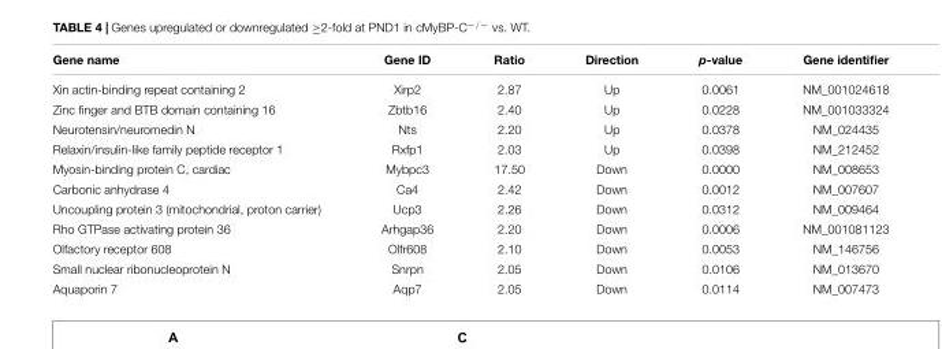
<table><thead><tr><td>Gene name</td><td>Gene ID</td><td>Ratio</td><td>Direction</td><td>p-value</td><td>Gene identifier</td></tr></thead><tbody><tr><td>Xin actin-binding repeat containing 2</td><td>Xirp2</td><td>2.87</td><td>Up</td><td>0.0061</td><td>NM_001024618</td></tr><tr><td>Zinc finger and BTB domain containing 16</td><td>Zbtb16</td><td>2.40</td><td>Up</td><td>0.0228</td><td>NM_001033324</td></tr><tr><td>Neurotensin/neuromedin N</td><td>Nts</td><td>2.20</td><td>Up</td><td>0.0378</td><td>NM_024435</td></tr><tr><td>Relaxin/insulin-like family peptide receptor 1</td><td>Rxfp1</td><td>2.03</td><td>Up</td><td>0.0398</td><td>NM_212452</td></tr><tr><td>Myosin-binding protein C, cardiac</td><td>Mybpc3</td><td>17.50</td><td>Down</td><td>0.0000</td><td>NM_008653</td></tr><tr><td>Carbonic anhydrase 4</td><td>Ca4</td><td>2.42</td><td>Down</td><td>0.0012</td><td>NM_007607</td></tr><tr><td>Uncoupling protein 3 (mitochondrial, proton carrier)</td><td>Ucp3</td><td>2.26</td><td>Down</td><td>0.0312</td><td>NM_009464</td></tr><tr><td>Rho GTPase activating protein 36</td><td>Arhgap36</td><td>2.20</td><td>Down</td><td>0.0006</td><td>NM_001081123</td></tr><tr><td>Olfactory receptor 608</td><td>Olfr608</td><td>2.10</td><td>Down</td><td>0.0053</td><td>NM_146756</td></tr><tr><td>Small nuclear ribonucleoprotein N</td><td>Snrpn</td><td>2.05</td><td>Down</td><td>0.0106</td><td>NM_013670</td></tr><tr><td>Aquaporin 7</td><td>Aqp7</td><td>2.05</td><td>Down</td><td>0.0114</td><td>NM_007473</td></tr></tbody></table>